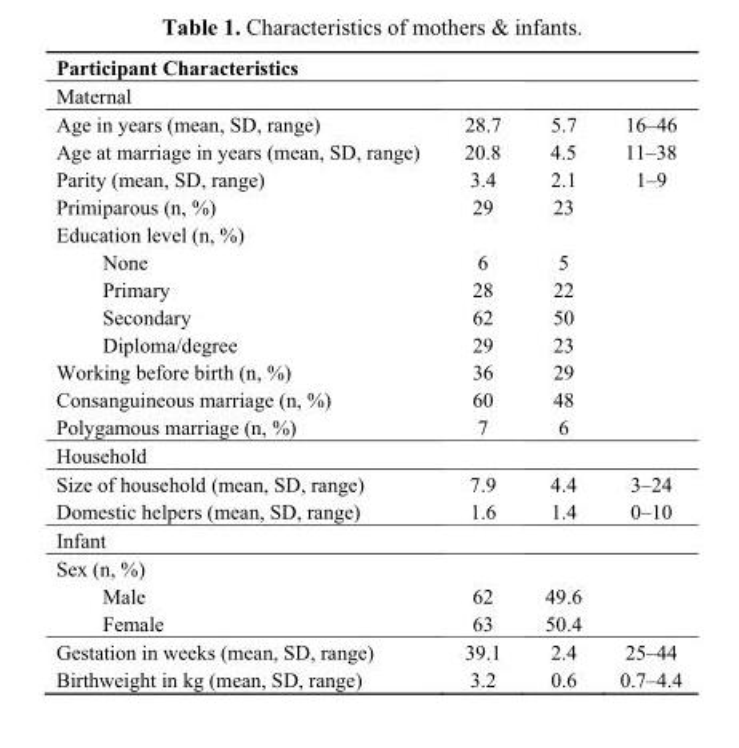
<table><thead><tr><td>Participant Characteristics</td><td></td><td></td><td></td></tr></thead><tbody><tr><td colspan="4">Maternal</td></tr><tr><td>Age in years (mean, SD, range)</td><td>28.7</td><td>5.7</td><td>16–46</td></tr><tr><td>Age at marriage in years (mean, SD, range)</td><td>20.8</td><td>4.5</td><td>11–38</td></tr><tr><td>Parity (mean, SD, range)</td><td>3.4</td><td>2.1</td><td>1–9</td></tr><tr><td>Primiparous (n, %)</td><td>29</td><td>23</td><td></td></tr><tr><td colspan="4">Education level (n, %)</td></tr><tr><td>None</td><td>6</td><td>5</td><td></td></tr><tr><td>Primary</td><td>28</td><td>22</td><td></td></tr><tr><td>Secondary</td><td>62</td><td>50</td><td></td></tr><tr><td>Diploma/degree</td><td>29</td><td>23</td><td></td></tr><tr><td>Working before birth (n, %)</td><td>36</td><td>29</td><td></td></tr><tr><td>Consanguineous marriage (n, %)</td><td>60</td><td>48</td><td></td></tr><tr><td>Polygamous marriage (n, %)</td><td>7</td><td>6</td><td></td></tr><tr><td colspan="4">Household</td></tr><tr><td>Size of household (mean, SD, range)</td><td>7.9</td><td>4.4</td><td>3–24</td></tr><tr><td>Domestic helpers (mean, SD, range)</td><td>1.6</td><td>1.4</td><td>0–10</td></tr><tr><td colspan="4">Infant</td></tr><tr><td colspan="4">Sex (n, %)</td></tr><tr><td>Male</td><td>62</td><td>49.6</td><td></td></tr><tr><td>Female</td><td>63</td><td>50.4</td><td></td></tr><tr><td>Gestation in weeks (mean, SD, range)</td><td>39.1</td><td>2.4</td><td>25–44</td></tr><tr><td>Birthweight in kg (mean, SD, range)</td><td>3.2</td><td>0.6</td><td>0.7–4.4</td></tr></tbody></table>